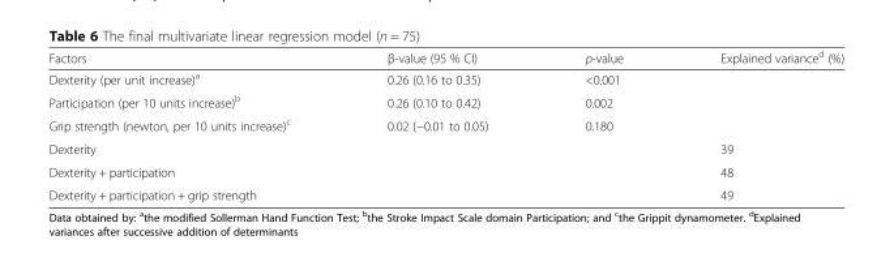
<table><thead><tr><td>Factors</td><td>β-value (95 % CI)</td><td>p-value</td><td>Explained variance<sup>d</sup> (%)</td></tr></thead><tbody><tr><td>Dexterity (per unit increase)<sup>a</sup></td><td>0.26 (0.16 to 0.35)</td><td>&lt;0.001</td><td></td></tr><tr><td>Participation (per 10 units increase)<sup>b</sup></td><td>0.26 (0.10 to 0.42)</td><td>0.002</td><td></td></tr><tr><td>Grip strength (newton, per 10 units increase)<sup>c</sup></td><td>0.02 (−0.01 to 0.05)</td><td>0.180</td><td></td></tr><tr><td>Dexterity</td><td colspan="2"></td><td>39</td></tr><tr><td>Dexterity + participation</td><td colspan="2"></td><td>48</td></tr><tr><td>Dexterity + participation + grip strength</td><td colspan="2"></td><td>49</td></tr></tbody></table>